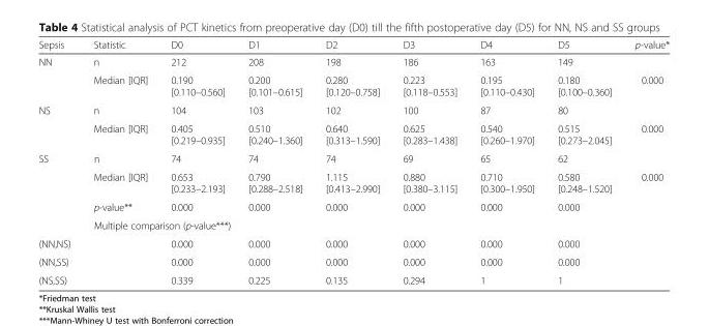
<table><thead><tr><td>Sepsis</td><td>Statistic</td><td>D0</td><td>D1</td><td>D2</td><td>D3</td><td>D4</td><td>D5</td><td>p-value*</td></tr></thead><tbody><tr><td rowspan="2">NN</td><td>n</td><td>212</td><td>208</td><td>198</td><td>186</td><td>163</td><td>149</td><td></td></tr><tr><td>Median [IQR]</td><td>0.190 [0.110–0.560]</td><td>0.200 [0.101–0.615]</td><td>0.280 [0.120–0.758]</td><td>0.223 [0.118–0.553]</td><td>0.195 [0.110–0.430]</td><td>0.180 [0.100–0.360]</td><td>0.000</td></tr><tr><td rowspan="2">NS</td><td>n</td><td>104</td><td>103</td><td>102</td><td>100</td><td>87</td><td>80</td><td></td></tr><tr><td>Median [IQR]</td><td>0.405 [0.219–0.935]</td><td>0.510 [0.240–1.360]</td><td>0.640 [0.313–1.590]</td><td>0.625 [0.283–1.438]</td><td>0.540 [0.260–1.970]</td><td>0.515 [0.273–2.045]</td><td>0.000</td></tr><tr><td rowspan="4">SS</td><td>n</td><td>74</td><td>74</td><td>74</td><td>69</td><td>65</td><td>62</td><td></td></tr><tr><td>Median [IQR]</td><td>0.653 [0.233–2.193]</td><td>0.790 [0.288–2.518]</td><td>1.115 [0.413–2.990]</td><td>0.880 [0.380–3.115]</td><td>0.710 [0.300–1.950]</td><td>0.580 [0.248–1.520]</td><td>0.000</td></tr><tr><td>p-value**</td><td>0.000</td><td>0.000</td><td>0.000</td><td>0.000</td><td>0.000</td><td>0.000</td><td></td></tr><tr><td colspan="4">Multiple comparison (p-value***)</td><td></td><td></td><td></td><td></td></tr><tr><td>(NN,NS)</td><td></td><td>0.000</td><td>0.000</td><td>0.000</td><td>0.000</td><td>0.000</td><td>0.000</td><td></td></tr><tr><td>(NN,SS)</td><td></td><td>0.000</td><td>0.000</td><td>0.000</td><td>0.000</td><td>0.000</td><td>0.000</td><td></td></tr><tr><td>(NS,SS)</td><td></td><td>0.339</td><td>0.225</td><td>0.135</td><td>0.294</td><td>1</td><td>1</td><td></td></tr></tbody></table>